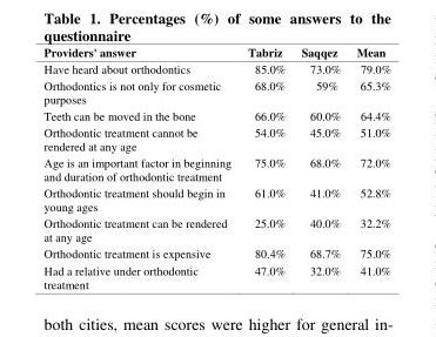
<table><tbody><tr><td>Providers&#x27; answer</td><td>Tabriz</td><td>Saqqez</td><td>Mean</td></tr><tr><td>Have heard about orthodontics</td><td>85.0%</td><td>73.0%</td><td>79.0%</td></tr><tr><td>Orthodontics is not only for cosmetic purposes</td><td>68.0%</td><td>59%</td><td>65.3%</td></tr><tr><td>Teeth can be moved in the bone</td><td>66.0%</td><td>60.0%</td><td>64.4%</td></tr><tr><td>Orthodontic treatment cannot be rendered at any age</td><td>54.0%</td><td>45.0%</td><td>51.0%</td></tr><tr><td>Age is an important factor in beginning and duration of orthodontic treatment</td><td>75.0%</td><td>68.0%</td><td>72.0%</td></tr><tr><td>Orthodontic treatment should begin in young ages</td><td>61.0%</td><td>41.0%</td><td>52.8%</td></tr><tr><td>Orthodontic treatment can be rendered at any age</td><td>25.0%</td><td>40.0%</td><td>32.2%</td></tr><tr><td>Orthodontic treatment is expensive</td><td>80.4%</td><td>68.7%</td><td>75.0%</td></tr><tr><td>Had a relative under orthodontic treatment</td><td>47.0%</td><td>32.0%</td><td>41.0%</td></tr></tbody></table>